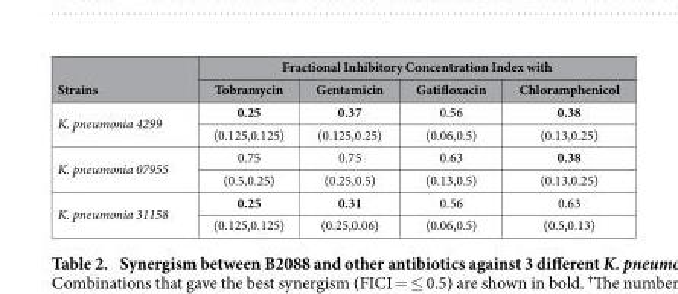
<table><thead><tr><td rowspan="2">Strains</td><td colspan="4">Fractional Inhibitory Concentration Index with</td></tr><tr><td>Tobramycin</td><td>Gentamicin</td><td>Gatifloxacin</td><td>Chloramphenicol</td></tr></thead><tbody><tr><td rowspan="2">K. pneumonia 4299</td><td>0.25</td><td>0.37</td><td>0.56</td><td>0.38</td></tr><tr><td>(0.125,0.125)</td><td>(0.125,0.25)</td><td>(0.06,0.5)</td><td>(0.13,0.25)</td></tr><tr><td rowspan="2">K. pneumonia 07955</td><td>0.75</td><td>0.75</td><td>0.63</td><td>0.38</td></tr><tr><td>(0.5,0.25)</td><td>(0.25,0.5)</td><td>(0.13,0.5)</td><td>(0.13,0.25)</td></tr><tr><td rowspan="2">K. pneumonia 31158</td><td>0.25</td><td>0.31</td><td>0.56</td><td>0.63</td></tr><tr><td>(0.125,0.125)</td><td>(0.25,0.06)</td><td>(0.06,0.5)</td><td>(0.5,0.13)</td></tr></tbody></table>